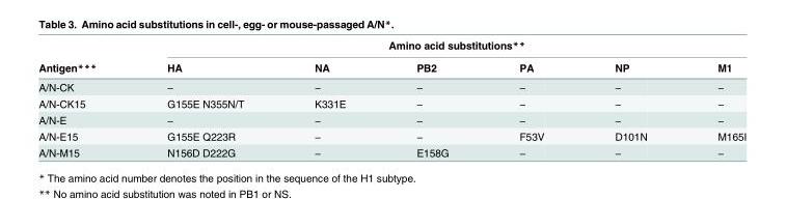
<table><thead><tr><td rowspan="2">Antigen***</td><td colspan="6">Amino acid substitutions**</td></tr><tr><td>HA</td><td>NA</td><td>PB2</td><td>PA</td><td>NP</td><td>M1</td></tr></thead><tbody><tr><td>A/N-CK</td><td>―</td><td>―</td><td>―</td><td>―</td><td>―</td><td>―</td></tr><tr><td>A/N-CK15</td><td>G155E N355N/T</td><td>K331E</td><td>―</td><td>―</td><td>―</td><td>―</td></tr><tr><td>A/N-E</td><td>―</td><td>―</td><td>―</td><td>―</td><td>―</td><td>―</td></tr><tr><td>A/N-E15</td><td>G155E Q223R</td><td>―</td><td>―</td><td>F53V</td><td>D101N</td><td>M165I</td></tr><tr><td>A/N-M15</td><td>N156D D222G</td><td>―</td><td>E158G</td><td>―</td><td>―</td><td>―</td></tr></tbody></table>